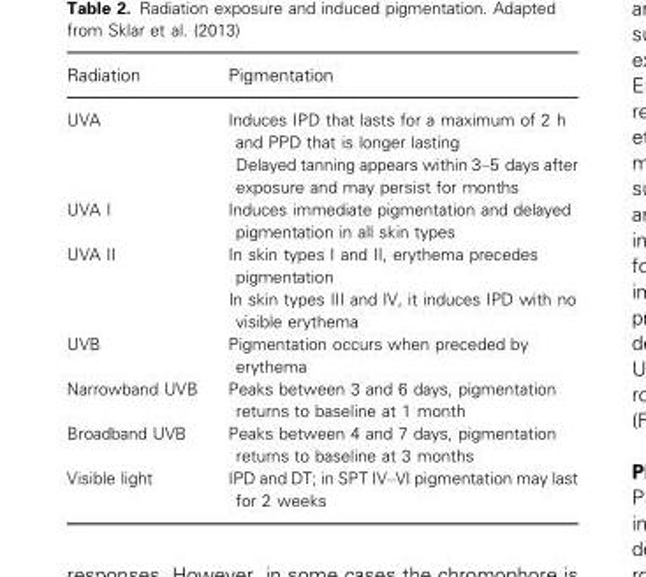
<table><thead><tr><td>Radiation</td><td>Pigmentation</td></tr></thead><tbody><tr><td>UVA</td><td>Induces IPD that lasts for a maximum of 2 h and PPD that is longer lasting Delayed tanning appears within 3–5 days after exposure and may persist for months</td></tr><tr><td>UVA I</td><td>Induces immediate pigmentation and delayed pigmentation in all skin types</td></tr><tr><td>UVA II</td><td>In skin types I and II, erythema precedes pigmentation In skin types III and IV, it induces IPD with no visible erythema</td></tr><tr><td>UVB</td><td>Pigmentation occurs when preceded by erythema</td></tr><tr><td>Narrowband UVB</td><td>Peaks between 3 and 6 days, pigmentation returns to baseline at 1 month</td></tr><tr><td>Broadband UVB</td><td>Peaks between 4 and 7 days, pigmentation returns to baseline at 3 months</td></tr><tr><td>Visible light</td><td>IPD and DT; in SPT IV–VI pigmentation may last for 2 weeks</td></tr></tbody></table>